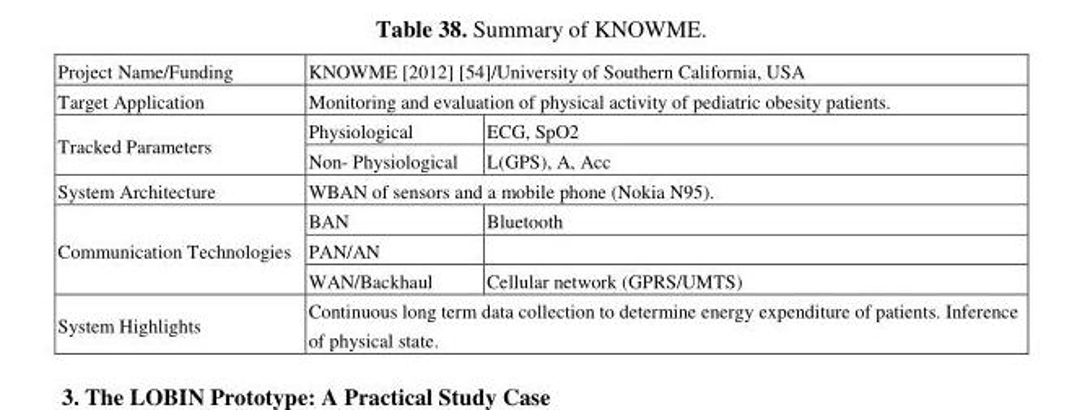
<table><tbody><tr><td>Project Name/Funding</td><td colspan="2">KNOWME [2012] [54]/University of Southern California, USA</td></tr><tr><td>Target Application</td><td colspan="2">Monitoring and evaluation of physical activity of pediatric obesity patients.</td></tr><tr><td rowspan="2">Tracked Parameters</td><td>Physiological</td><td>ECG, SpO2</td></tr><tr><td>Non- Physiological</td><td>L(GPS), A, Acc</td></tr><tr><td>System Architecture</td><td colspan="2">WBAN of sensors and a mobile phone (Nokia N95).</td></tr><tr><td rowspan="3">Communication Technologies</td><td>BAN</td><td>Bluetooth</td></tr><tr><td>PAN/AN</td><td></td></tr><tr><td>WAN/Backhaul</td><td>Cellular network (GPRS/UMTS)</td></tr><tr><td>System Highlights</td><td colspan="2">Continuous long term data collection to determine energy expenditure of patients. Inference of physical state.</td></tr></tbody></table>